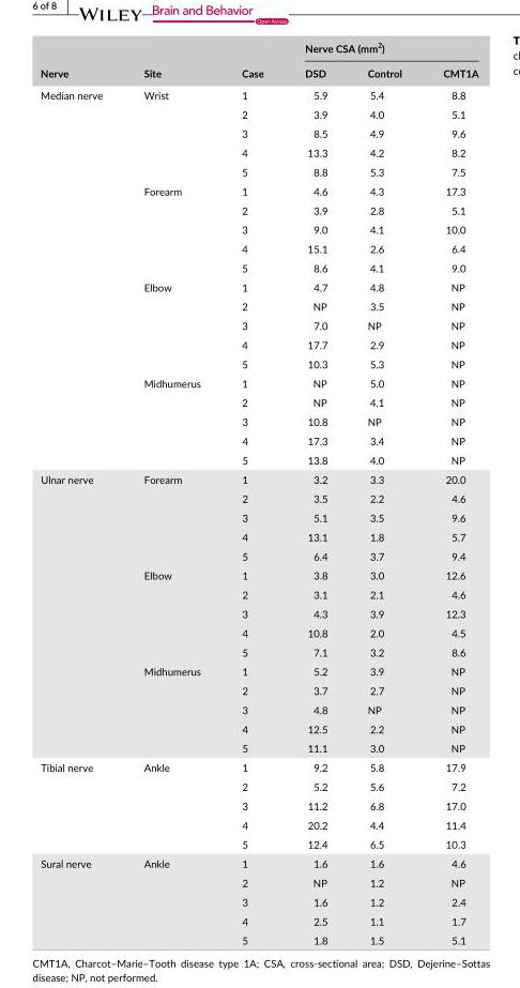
<table><thead><tr><td rowspan="2">Nerve</td><td rowspan="2">Site</td><td rowspan="2">Case</td><td colspan="3">Nerve CSA (mm<sup>2</sup>)</td></tr><tr><td>DSD</td><td>Control</td><td>CMT1A</td></tr></thead><tbody><tr><td rowspan="20">Median nerve</td><td rowspan="5">Wrist</td><td>1</td><td>5.9</td><td>5.4</td><td>8.8</td></tr><tr><td>2</td><td>3.9</td><td>4.0</td><td>5.1</td></tr><tr><td>3</td><td>8.5</td><td>4.9</td><td>9.6</td></tr><tr><td>4</td><td>13.3</td><td>4.2</td><td>8.2</td></tr><tr><td>5</td><td>8.8</td><td>5.3</td><td>7.5</td></tr><tr><td rowspan="5">Forearm</td><td>1</td><td>4.6</td><td>4.3</td><td>17.3</td></tr><tr><td>2</td><td>3.9</td><td>2.8</td><td>5.1</td></tr><tr><td>3</td><td>9.0</td><td>4.1</td><td>10.0</td></tr><tr><td>4</td><td>15.1</td><td>2.6</td><td>6.4</td></tr><tr><td>5</td><td>8.6</td><td>4.1</td><td>9.0</td></tr><tr><td rowspan="5">Elbow</td><td>1</td><td>4.7</td><td>4.8</td><td>NP</td></tr><tr><td>2</td><td>NP</td><td>3.5</td><td>NP</td></tr><tr><td>3</td><td>7.0</td><td>NP</td><td>NP</td></tr><tr><td>4</td><td>17.7</td><td>2.9</td><td>NP</td></tr><tr><td>5</td><td>10.3</td><td>5.3</td><td>NP</td></tr><tr><td rowspan="5">Midhumerus</td><td>1</td><td>NP</td><td>5.0</td><td>NP</td></tr><tr><td>2</td><td>NP</td><td>4.1</td><td>NP</td></tr><tr><td>3</td><td>10.8</td><td>NP</td><td>NP</td></tr><tr><td>4</td><td>17.3</td><td>3.4</td><td>NP</td></tr><tr><td>5</td><td>13.8</td><td>4.0</td><td>NP</td></tr><tr><td rowspan="15">Ulnar nerve</td><td rowspan="5">Forearm</td><td>1</td><td>3.2</td><td>3.3</td><td>20.0</td></tr><tr><td>2</td><td>3.5</td><td>2.2</td><td>4.6</td></tr><tr><td>3</td><td>5.1</td><td>3.5</td><td>9.6</td></tr><tr><td>4</td><td>13.1</td><td>1.8</td><td>5.7</td></tr><tr><td>5</td><td>6.4</td><td>3.7</td><td>9.4</td></tr><tr><td rowspan="5">Elbow</td><td>1</td><td>3.8</td><td>3.0</td><td>12.6</td></tr><tr><td>2</td><td>3.1</td><td>2.1</td><td>4.6</td></tr><tr><td>3</td><td>4.3</td><td>3.9</td><td>12.3</td></tr><tr><td>4</td><td>10.8</td><td>2.0</td><td>4.5</td></tr><tr><td>5</td><td>7.1</td><td>3.2</td><td>8.6</td></tr><tr><td rowspan="5">Midhumerus</td><td>1</td><td>5.2</td><td>3.9</td><td>NP</td></tr><tr><td>2</td><td>3.7</td><td>2.7</td><td>NP</td></tr><tr><td>3</td><td>4.8</td><td>NP</td><td>NP</td></tr><tr><td>4</td><td>12.5</td><td>2.2</td><td>NP</td></tr><tr><td>5</td><td>11.1</td><td>3.0</td><td>NP</td></tr><tr><td rowspan="5">Tibial nerve</td><td rowspan="5">Ankle</td><td>1</td><td>9.2</td><td>5.8</td><td>17.9</td></tr><tr><td>2</td><td>5.2</td><td>5.6</td><td>7.2</td></tr><tr><td>3</td><td>11.2</td><td>6.8</td><td>17.0</td></tr><tr><td>4</td><td>20.2</td><td>4.4</td><td>11.4</td></tr><tr><td>5</td><td>12.4</td><td>6.5</td><td>10.3</td></tr><tr><td rowspan="5">Sural nerve</td><td rowspan="5">Ankle</td><td>1</td><td>1.6</td><td>1.6</td><td>4.6</td></tr><tr><td>2</td><td>NP</td><td>1.2</td><td>NP</td></tr><tr><td>3</td><td>1.6</td><td>1.2</td><td>2.4</td></tr><tr><td>4</td><td>2.5</td><td>1.1</td><td>1.7</td></tr><tr><td>5</td><td>1.8</td><td>1.5</td><td>5.1</td></tr></tbody></table>